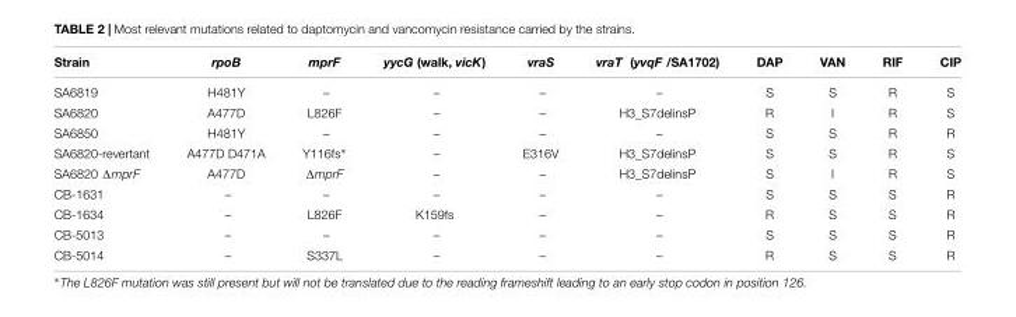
<table><thead><tr><td>Strain</td><td>rpoB</td><td>mprF</td><td>yycG (walk, vicK)</td><td>vraS</td><td>vraT (yvqF /SA1702)</td><td>DAP</td><td>VAN</td><td>RIF</td><td>CIP</td></tr></thead><tbody><tr><td>SA6819</td><td>H481Y</td><td>–</td><td>–</td><td>–</td><td>–</td><td>S</td><td>S</td><td>R</td><td>S</td></tr><tr><td>SA6820</td><td>A477D</td><td>L826F</td><td>–</td><td>–</td><td>H3_S7delinsP</td><td>R</td><td>I</td><td>R</td><td>S</td></tr><tr><td>SA6850</td><td>H481Y</td><td>–</td><td>–</td><td>–</td><td>–</td><td>S</td><td>S</td><td>R</td><td>R</td></tr><tr><td>SA6820-revertant</td><td>A477D D471A</td><td>Y116fs∗</td><td>–</td><td>E316V</td><td>H3_S7delinsP</td><td>S</td><td>S</td><td>R</td><td>S</td></tr><tr><td>SA6820 ΔmprF</td><td>A477D</td><td>ΔmprF</td><td>–</td><td>–</td><td>H3_S7delinsP</td><td>S</td><td>I</td><td>R</td><td>S</td></tr><tr><td>CB-1631</td><td>–</td><td>–</td><td>–</td><td>–</td><td>–</td><td>S</td><td>S</td><td>S</td><td>R</td></tr><tr><td>CB-1634</td><td>–</td><td>L826F</td><td>K159fs</td><td>–</td><td>–</td><td>R</td><td>S</td><td>S</td><td>R</td></tr><tr><td>CB-5013</td><td>–</td><td>–</td><td>–</td><td>–</td><td>–</td><td>S</td><td>S</td><td>S</td><td>R</td></tr><tr><td>CB-5014</td><td>–</td><td>S337L</td><td>–</td><td>–</td><td>–</td><td>R</td><td>S</td><td>S</td><td>R</td></tr></tbody></table>